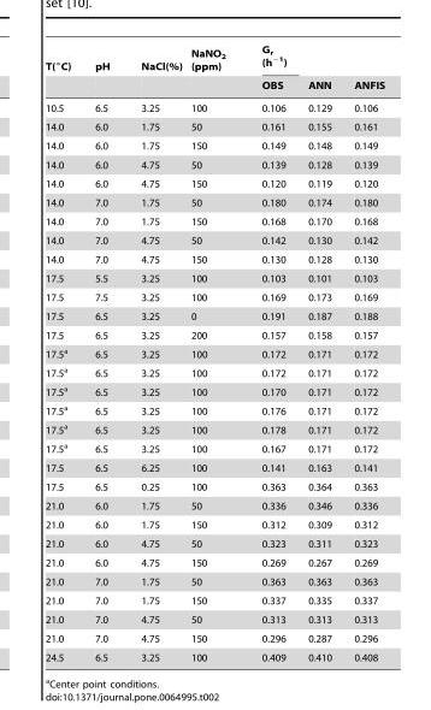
<table><thead><tr><td rowspan="2">T(°C)</td><td rowspan="2">pH</td><td rowspan="2">NaCl(%)</td><td rowspan="2">NaNO<sub>2</sub> (ppm)</td><td rowspan="2">G<sub>r</sub> (h<sup>−1</sup>) OBS</td><td rowspan="2">ANN</td><td rowspan="2">ANFIS</td></tr><tr></tr></thead><tbody><tr><td>10.5</td><td>6.5</td><td>3.25</td><td>100</td><td>0.106</td><td>0.129</td><td>0.106</td></tr><tr><td>14.0</td><td>6.0</td><td>1.75</td><td>50</td><td>0.161</td><td>0.155</td><td>0.161</td></tr><tr><td>14.0</td><td>6.0</td><td>1.75</td><td>150</td><td>0.149</td><td>0.148</td><td>0.149</td></tr><tr><td>14.0</td><td>6.0</td><td>4.75</td><td>50</td><td>0.139</td><td>0.128</td><td>0.139</td></tr><tr><td>14.0</td><td>6.0</td><td>4.75</td><td>150</td><td>0.120</td><td>0.119</td><td>0.120</td></tr><tr><td>14.0</td><td>7.0</td><td>1.75</td><td>50</td><td>0.180</td><td>0.174</td><td>0.180</td></tr><tr><td>14.0</td><td>7.0</td><td>1.75</td><td>150</td><td>0.168</td><td>0.170</td><td>0.168</td></tr><tr><td>14.0</td><td>7.0</td><td>4.75</td><td>50</td><td>0.142</td><td>0.130</td><td>0.142</td></tr><tr><td>14.0</td><td>7.0</td><td>4.75</td><td>150</td><td>0.130</td><td>0.128</td><td>0.130</td></tr><tr><td>17.5</td><td>5.5</td><td>3.25</td><td>100</td><td>0.103</td><td>0.101</td><td>0.103</td></tr><tr><td>17.5</td><td>7.5</td><td>3.25</td><td>100</td><td>0.169</td><td>0.173</td><td>0.169</td></tr><tr><td>17.5</td><td>6.5</td><td>3.25</td><td>0</td><td>0.191</td><td>0.187</td><td>0.188</td></tr><tr><td>17.5</td><td>6.5</td><td>3.25</td><td>200</td><td>0.157</td><td>0.158</td><td>0.157</td></tr><tr><td>17.5<sup>a</sup></td><td>6.5</td><td>3.25</td><td>100</td><td>0.172</td><td>0.171</td><td>0.172</td></tr><tr><td>17.5<sup>a</sup></td><td>6.5</td><td>3.25</td><td>100</td><td>0.172</td><td>0.171</td><td>0.172</td></tr><tr><td>17.5<sup>a</sup></td><td>6.5</td><td>3.25</td><td>100</td><td>0.170</td><td>0.171</td><td>0.172</td></tr><tr><td>17.5<sup>a</sup></td><td>6.5</td><td>3.25</td><td>100</td><td>0.176</td><td>0.171</td><td>0.172</td></tr><tr><td>17.5<sup>a</sup></td><td>6.5</td><td>3.25</td><td>100</td><td>0.178</td><td>0.171</td><td>0.172</td></tr><tr><td>17.5<sup>a</sup></td><td>6.5</td><td>3.25</td><td>100</td><td>0.167</td><td>0.171</td><td>0.172</td></tr><tr><td>17.5</td><td>6.5</td><td>6.25</td><td>100</td><td>0.141</td><td>0.163</td><td>0.141</td></tr><tr><td>17.5</td><td>6.5</td><td>0.25</td><td>100</td><td>0.363</td><td>0.364</td><td>0.363</td></tr><tr><td>21.0</td><td>6.0</td><td>1.75</td><td>50</td><td>0.336</td><td>0.346</td><td>0.336</td></tr><tr><td>21.0</td><td>6.0</td><td>1.75</td><td>150</td><td>0.312</td><td>0.309</td><td>0.312</td></tr><tr><td>21.0</td><td>6.0</td><td>4.75</td><td>50</td><td>0.323</td><td>0.311</td><td>0.323</td></tr><tr><td>21.0</td><td>6.0</td><td>4.75</td><td>150</td><td>0.269</td><td>0.267</td><td>0.269</td></tr><tr><td>21.0</td><td>7.0</td><td>1.75</td><td>50</td><td>0.363</td><td>0.363</td><td>0.363</td></tr><tr><td>21.0</td><td>7.0</td><td>1.75</td><td>150</td><td>0.337</td><td>0.335</td><td>0.337</td></tr><tr><td>21.0</td><td>7.0</td><td>4.75</td><td>50</td><td>0.313</td><td>0.313</td><td>0.313</td></tr><tr><td>21.0</td><td>7.0</td><td>4.75</td><td>150</td><td>0.296</td><td>0.287</td><td>0.296</td></tr><tr><td>24.5</td><td>6.5</td><td>3.25</td><td>100</td><td>0.409</td><td>0.410</td><td>0.408</td></tr></tbody></table>